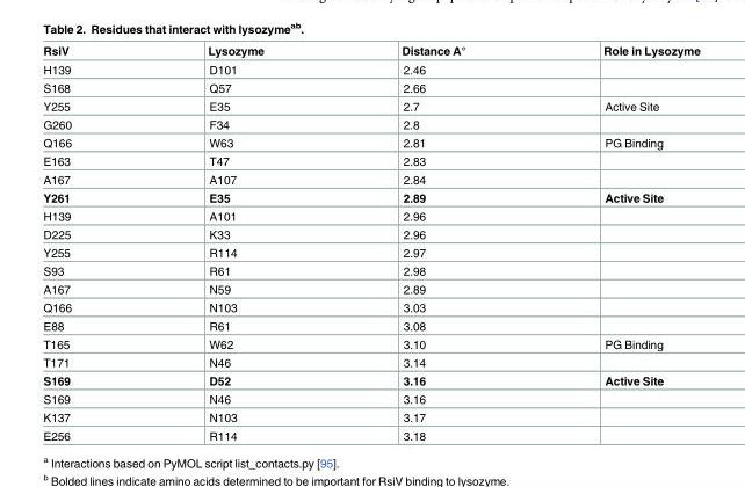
<table><thead><tr><td>RsiV</td><td>Lysozyme</td><td>Distance A°</td><td>Role in Lysozyme</td></tr></thead><tbody><tr><td>H139</td><td>D101</td><td>2.46</td><td></td></tr><tr><td>S168</td><td>Q57</td><td>2.66</td><td></td></tr><tr><td>Y255</td><td>E35</td><td>2.7</td><td>Active Site</td></tr><tr><td>G260</td><td>F34</td><td>2.8</td><td></td></tr><tr><td>Q166</td><td>W63</td><td>2.81</td><td>PG Binding</td></tr><tr><td>E163</td><td>T47</td><td>2.83</td><td></td></tr><tr><td>A167</td><td>A107</td><td>2.84</td><td></td></tr><tr><td>Y261</td><td>E35</td><td>2.89</td><td>Active Site</td></tr><tr><td>H139</td><td>A101</td><td>2.96</td><td></td></tr><tr><td>D225</td><td>K33</td><td>2.96</td><td></td></tr><tr><td>Y255</td><td>R114</td><td>2.97</td><td></td></tr><tr><td>S93</td><td>R61</td><td>2.98</td><td></td></tr><tr><td>A167</td><td>N59</td><td>2.89</td><td></td></tr><tr><td>Q166</td><td>N103</td><td>3.03</td><td></td></tr><tr><td>E88</td><td>R61</td><td>3.08</td><td></td></tr><tr><td>T165</td><td>W62</td><td>3.10</td><td>PG Binding</td></tr><tr><td>T171</td><td>N46</td><td>3.14</td><td></td></tr><tr><td>S169</td><td>D52</td><td>3.16</td><td>Active Site</td></tr><tr><td>S169</td><td>N46</td><td>3.16</td><td></td></tr><tr><td>K137</td><td>N103</td><td>3.17</td><td></td></tr><tr><td>E256</td><td>R114</td><td>3.18</td><td></td></tr></tbody></table>